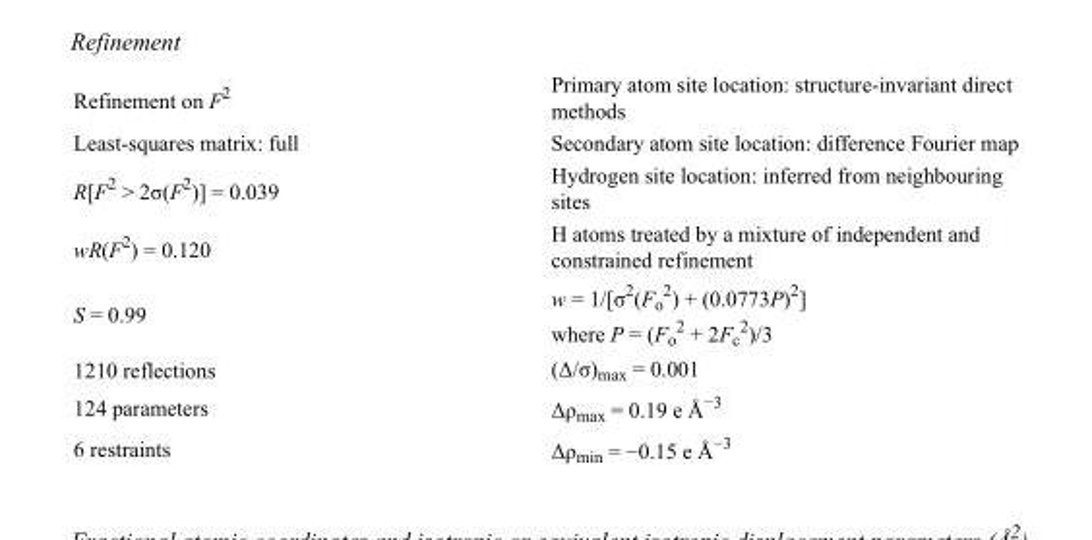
<table><tbody><tr><td>Refinement on F<sup>2</sup></td><td>Primary atom site location: structure-invariant direct methods</td></tr><tr><td>Least-squares matrix: full</td><td>Secondary atom site location: difference Fourier map</td></tr><tr><td>R[F<sup>2</sup> &gt; 2σ(F<sup>2</sup>)] = 0.039</td><td>Hydrogen site location: inferred from neighbouring sites</td></tr><tr><td>wR(F<sup>2</sup>) = 0.120</td><td>H atoms treated by a mixture of independent and constrained refinement</td></tr><tr><td>S = 0.99</td><td>w = 1/[σ<sup>2</sup>(F<sub>o</sub> <sup>2</sup>) + (0.0773P)<sup>2</sup>] where P = (F<sub>o</sub> <sup>2</sup> + 2F<sub>c</sub> <sup>2</sup>)/3</td></tr><tr><td>1210 reflections</td><td>(Δ/σ)<sub>max</sub> = 0.001</td></tr><tr><td>124 parameters</td><td>Δρ<sub>max</sub> = 0.19 e Å<sup>−3</sup></td></tr><tr><td>6 restraints</td><td>Δρ<sub>min</sub> = −0.15 e Å<sup>−3</sup></td></tr></tbody></table>